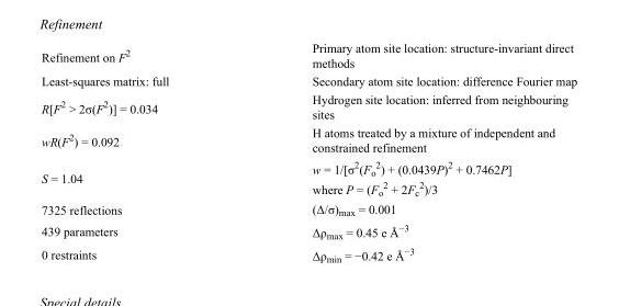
<table><tbody><tr><td>Refinement on F<sup>2</sup></td><td>Primary atom site location: structure-invariant direct methods</td></tr><tr><td>Least-squares matrix: full</td><td>Secondary atom site location: difference Fourier map</td></tr><tr><td>R[F<sup>2</sup> &gt; 2σ(F<sup>2</sup>)] = 0.034</td><td>Hydrogen site location: inferred from neighbouring sites</td></tr><tr><td>wR(F<sup>2</sup>) = 0.092</td><td>H atoms treated by a mixture of independent and constrained refinement</td></tr><tr><td>S = 1.04</td><td>w = 1/[σ<sup>2</sup>(F<sub>o</sub> <sup>2</sup>) + (0.0439P)<sup>2</sup> + 0.7462P] where P = (F<sub>o</sub> <sup>2</sup> + 2F<sub>c</sub> <sup>2</sup>)/3</td></tr><tr><td>7325 reflections</td><td>(Δ/σ)<sub>max</sub> = 0.001</td></tr><tr><td>439 parameters</td><td>Δρ<sub>max</sub> = 0.45 e Å<sup>−3</sup></td></tr><tr><td>0 restraints</td><td>Δρ<sub>min</sub> = −0.42 e Å<sup>−3</sup></td></tr></tbody></table>